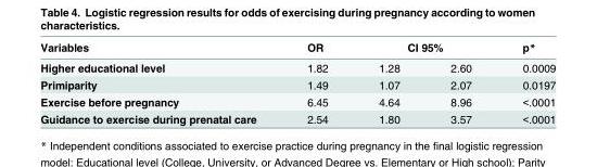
<table><thead><tr><td rowspan="2">Variables Higher educational level</td><td rowspan="2">OR 1.82</td><td colspan="2">CI 95%</td><td rowspan="2">p* 0.0009</td></tr><tr><td>1.28</td><td>2.60</td></tr></thead><tbody><tr><td>Primiparity</td><td>1.49</td><td>1.07</td><td>2.07</td><td>0.0197</td></tr><tr><td>Exercise before pregnancy</td><td>6.45</td><td>4.64</td><td>8.96</td><td>&lt;.0001</td></tr><tr><td>Guidance to exercise during prenatal care</td><td>2.54</td><td>1.80</td><td>3.57</td><td>&lt;.0001</td></tr></tbody></table>